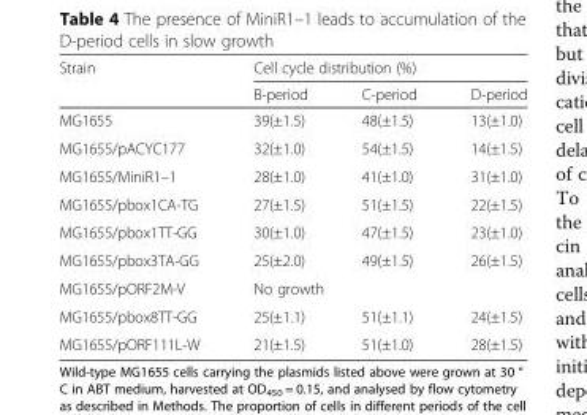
<table><thead><tr><td rowspan="2">Strain</td><td colspan="3">Cell cycle distribution (%)</td></tr><tr><td>B-period</td><td>C-period</td><td>D-period</td></tr></thead><tbody><tr><td>MG1655</td><td>39(±1.5)</td><td>48(±1.5)</td><td>13(±1.0)</td></tr><tr><td>MG1655/pACYC177</td><td>32(±1.0)</td><td>54(±1.5)</td><td>14(±1.5)</td></tr><tr><td>MG1655/MiniR1–1</td><td>28(±1.0)</td><td>41(±1.0)</td><td>31(±1.0)</td></tr><tr><td>MG1655/pbox1CA-TG</td><td>27(±1.5)</td><td>51(±1.5)</td><td>22(±1.5)</td></tr><tr><td>MG1655/pbox1TT-GG</td><td>30(±1.0)</td><td>47(±1.5)</td><td>23(±1.0)</td></tr><tr><td>MG1655/pbox3TA-GG</td><td>25(±2.0)</td><td>49(±1.5)</td><td>26(±1.5)</td></tr><tr><td>MG1655/pORF2M-V</td><td colspan="3">No growth</td></tr><tr><td>MG1655/pbox8TT-GG</td><td>25(±1.1)</td><td>51(±1.1)</td><td>24(±1.5)</td></tr><tr><td>MG1655/pORF111L-W</td><td>21(±1.5)</td><td>51(±1.0)</td><td>28(±1.5)</td></tr></tbody></table>